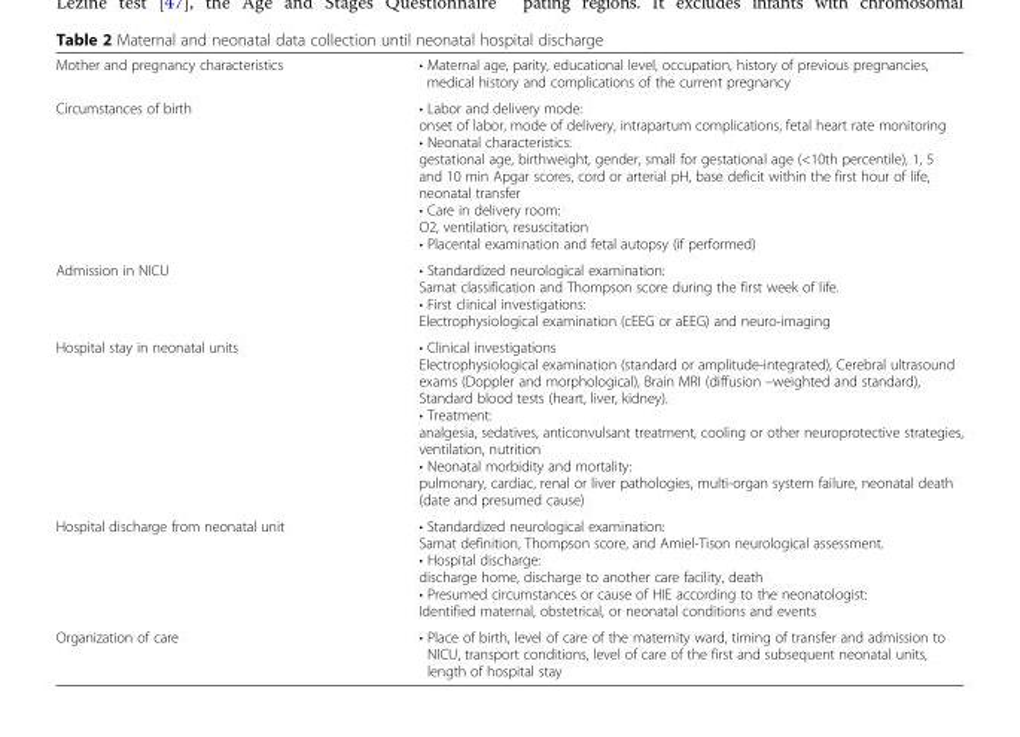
<table><tbody><tr><td>Mother and pregnancy characteristics</td><td>• Maternal age, parity, educational level, occupation, history of previous pregnancies, medical history and complications of the current pregnancy</td></tr><tr><td>Circumstances of birth</td><td>• Labor and delivery mode: onset of labor, mode of delivery, intrapartum complications, fetal heart rate monitoring • Neonatal characteristics: gestational age, birthweight, gender, small for gestational age (&lt;10th percentile), 1, 5 and 10 min Apgar scores, cord or arterial pH, base deficit within the first hour of life, neonatal transfer • Care in delivery room: O2, ventilation, resuscitation • Placental examination and fetal autopsy (if performed)</td></tr><tr><td>Admission in NICU</td><td>• Standardized neurological examination: Sarnat classification and Thompson score during the first week of life. • First clinical investigations: Electrophysiological examination (cEEG or aEEG) and neuro-imaging</td></tr><tr><td>Hospital stay in neonatal units</td><td>• Clinical investigations Electrophysiological examination (standard or amplitude-integrated), Cerebral ultrasound exams (Doppler and morphological), Brain MRI (diffusion –weighted and standard), Standard blood tests (heart, liver, kidney). • Treatment: analgesia, sedatives, anticonvulsant treatment, cooling or other neuroprotective strategies, ventilation, nutrition • Neonatal morbidity and mortality: pulmonary, cardiac, renal or liver pathologies, multi-organ system failure, neonatal death (date and presumed cause)</td></tr><tr><td>Hospital discharge from neonatal unit</td><td>• Standardized neurological examination: Sarnat definition, Thompson score, and Amiel-Tison neurological assessment. • Hospital discharge: discharge home, discharge to another care facility, death • Presumed circumstances or cause of HIE according to the neonatologist: Identified maternal, obstetrical, or neonatal conditions and events</td></tr><tr><td>Organization of care</td><td>• Place of birth, level of care of the maternity ward, timing of transfer and admission to NICU, transport conditions, level of care of the first and subsequent neonatal units, length of hospital stay</td></tr></tbody></table>